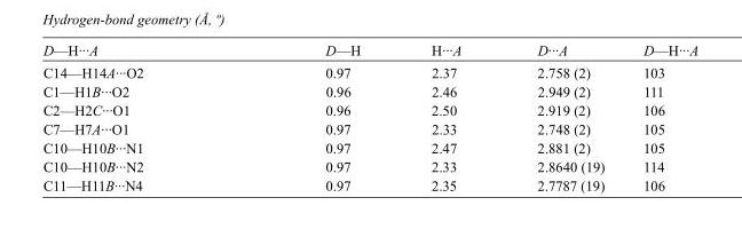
<table><tbody><tr><td>D—H···A</td><td>D—H</td><td>H···A</td><td>D···A</td><td>D—H···A</td></tr><tr><td>C14—H14A···O2</td><td>0.97</td><td>2.37</td><td>2.758 (2)</td><td>103</td></tr><tr><td>C1—H1B···O2</td><td>0.96</td><td>2.46</td><td>2.949 (2)</td><td>111</td></tr><tr><td>C2—H2C···O1</td><td>0.96</td><td>2.50</td><td>2.919 (2)</td><td>106</td></tr><tr><td>C7—H7A···O1</td><td>0.97</td><td>2.33</td><td>2.748 (2)</td><td>105</td></tr><tr><td>C10—H10B···N1</td><td>0.97</td><td>2.47</td><td>2.881 (2)</td><td>105</td></tr><tr><td>C10—H10B···N2</td><td>0.97</td><td>2.33</td><td>2.8640 (19)</td><td>114</td></tr><tr><td>C11—H11B···N4</td><td>0.97</td><td>2.35</td><td>2.7787 (19)</td><td>106</td></tr></tbody></table>